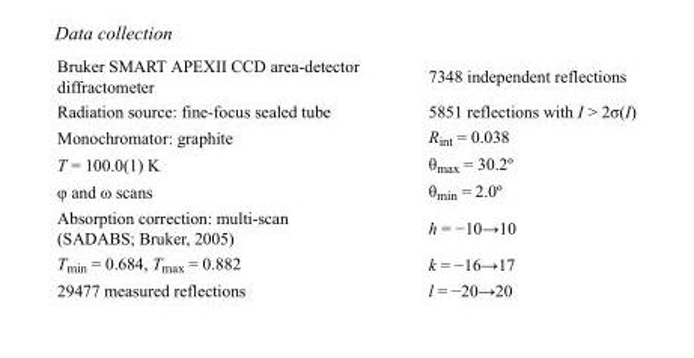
<table><tbody><tr><td>Bruker SMART APEXII CCD area-detector diffractometer</td><td>7348 independent reflections</td></tr><tr><td>Radiation source: fine-focus sealed tube</td><td>5851 reflections with I &gt; 2σ(I)</td></tr><tr><td>Monochromator: graphite</td><td>R<sub>int</sub> = 0.038</td></tr><tr><td>T = 100.0(1) K</td><td>θ<sub>max</sub> = 30.2º</td></tr><tr><td>φ and ω scans</td><td>θ<sub>min</sub> = 2.0º</td></tr><tr><td>Absorption correction: multi-scan (SADABS; Bruker, 2005)</td><td>h = −10→10</td></tr><tr><td>T<sub>min</sub> = 0.684, T<sub>max</sub> = 0.882</td><td>k = −16→17</td></tr><tr><td>29477 measured reflections</td><td>l = −20→20</td></tr></tbody></table>